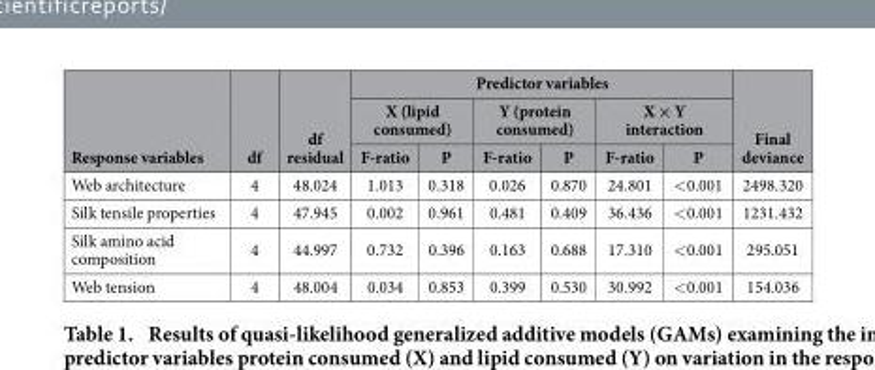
<table><thead><tr><td rowspan="3">Response variables</td><td rowspan="3">df</td><td rowspan="3">df residual</td><td colspan="6">Predictor variables</td><td rowspan="3">Final deviance</td></tr><tr><td colspan="2">X (lipid consumed)</td><td colspan="2">Y (protein consumed)</td><td colspan="2">X × Y interaction</td></tr><tr><td>F-ratio</td><td>P</td><td>F-ratio</td><td>P</td><td>F-ratio</td><td>P</td></tr></thead><tbody><tr><td>Web architecture</td><td>4</td><td>48.024</td><td>1.013</td><td>0.318</td><td>0.026</td><td>0.870</td><td>24.801</td><td>&lt; 0.001</td><td>2498.320</td></tr><tr><td>Silk tensile properties</td><td>4</td><td>47.945</td><td>0.002</td><td>0.961</td><td>0.481</td><td>0.409</td><td>36.436</td><td>&lt; 0.001</td><td>1231.432</td></tr><tr><td>Silk amino acid composition</td><td>4</td><td>44.997</td><td>0.732</td><td>0.396</td><td>0.163</td><td>0.688</td><td>17.310</td><td>&lt; 0.001</td><td>295.051</td></tr><tr><td>Web tension</td><td>4</td><td>48.004</td><td>0.034</td><td>0.853</td><td>0.399</td><td>0.530</td><td>30.992</td><td>&lt; 0.001</td><td>154.036</td></tr></tbody></table>